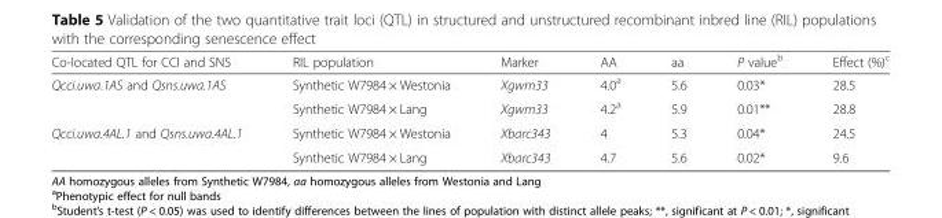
<table><thead><tr><td>Co-located QTL for CCI and SNS</td><td>RIL population</td><td>Marker</td><td>AA</td><td>aa</td><td>P value<sup>b</sup></td><td>Effect (%)<sup>c</sup></td></tr></thead><tbody><tr><td rowspan="2">Qcci.uwa.1AS and Qsns.uwa.1AS</td><td>Synthetic W7984 × Westonia</td><td>Xgwm33</td><td>4.0<sup>a</sup></td><td>5.6</td><td>0.03*</td><td>28.5</td></tr><tr><td>Synthetic W7984 × Lang</td><td>Xgwm33</td><td>4.2<sup>a</sup></td><td>5.9</td><td>0.01**</td><td>28.8</td></tr><tr><td rowspan="2">Qcci.uwa.4AL.1 and Qsns.uwa.4AL.1</td><td>Synthetic W7984 × Westonia</td><td>Xbarc343</td><td>4</td><td>5.3</td><td>0.04*</td><td>24.5</td></tr><tr><td>Synthetic W7984 × Lang</td><td>Xbarc343</td><td>4.7</td><td>5.6</td><td>0.02*</td><td>9.6</td></tr></tbody></table>